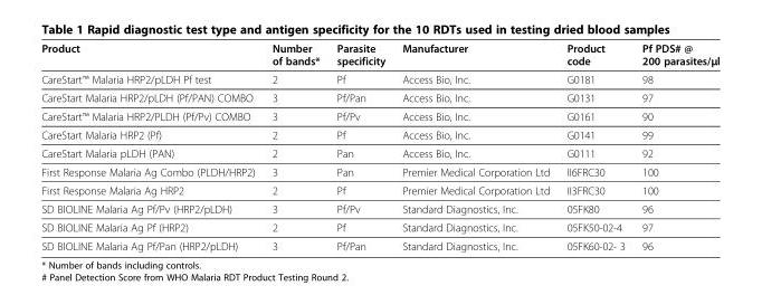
<table><thead><tr><td>Product</td><td>Number of bands*</td><td>Parasite specificity</td><td>Manufacturer</td><td>Product code</td><td>Pf PDS# @ 200 parasites/μl</td></tr></thead><tbody><tr><td>CareStart™ Malaria HRP2/pLDH Pf test</td><td>2</td><td>Pf</td><td>Access Bio, Inc.</td><td>G0181</td><td>98</td></tr><tr><td>CareStart Malaria HRP2/pLDH (Pf/PAN) COMBO</td><td>3</td><td>Pf/Pan</td><td>Access Bio, Inc.</td><td>G0131</td><td>97</td></tr><tr><td>CareStart™ Malaria HRP2/PLDH (Pf/Pv) COMBO</td><td>3</td><td>Pf/Pv</td><td>Access Bio, Inc.</td><td>G0161</td><td>90</td></tr><tr><td>CareStart Malaria HRP2 (Pf)</td><td>2</td><td>Pf</td><td>Access Bio, Inc.</td><td>G0141</td><td>99</td></tr><tr><td>CareStart Malaria pLDH (PAN)</td><td>2</td><td>Pan</td><td>Access Bio, Inc.</td><td>G0111</td><td>92</td></tr><tr><td>First Response Malaria Ag Combo (PLDH/HRP2)</td><td>3</td><td>Pan</td><td>Premier Medical Corporation Ltd</td><td>II6FRC30</td><td>100</td></tr><tr><td>First Response Malaria Ag HRP2</td><td>2</td><td>Pf</td><td>Premier Medical Corporation Ltd</td><td>II3FRC30</td><td>100</td></tr><tr><td>SD BIOLINE Malaria Ag Pf/Pv (HRP2/pLDH)</td><td>3</td><td>Pf/Pv</td><td>Standard Diagnostics, Inc.</td><td>05FK80</td><td>96</td></tr><tr><td>SD BIOLINE Malaria Ag Pf (HRP2)</td><td>2</td><td>Pf</td><td>Standard Diagnostics, Inc.</td><td>05FK50-02-4</td><td>97</td></tr><tr><td>SD BIOLINE Malaria Ag Pf/Pan (HRP2/pLDH)</td><td>3</td><td>Pf/Pan</td><td>Standard Diagnostics, Inc.</td><td>05FK60-02- 3</td><td>96</td></tr></tbody></table>